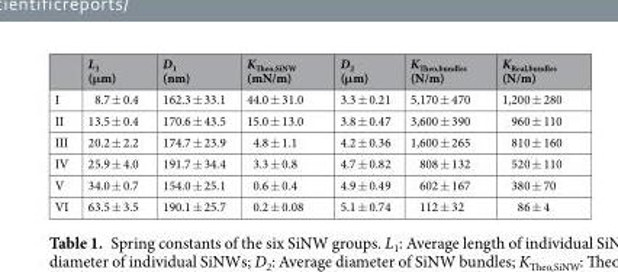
<table><thead><tr><td></td><td>L<sub>1</sub> (μm)</td><td>D<sub>1</sub> (nm)</td><td>K<sub>Theo,SiNW</sub> (mN/m)</td><td>D<sub>2</sub> (μm)</td><td>K<sub>Theo,bundles</sub> (N/m)</td><td>K<sub>Real,bundles</sub> (N/m)</td></tr></thead><tbody><tr><td>I</td><td>8.7 ± 0.4</td><td>162.3 ± 33.1</td><td>44.0 ± 31.0</td><td>3.3 ± 0.21</td><td>5,170 ± 470</td><td>1,200 ± 280</td></tr><tr><td>II</td><td>13.5 ± 0.4</td><td>170.6 ± 43.5</td><td>15.0 ± 13.0</td><td>3.8 ± 0.47</td><td>3,600 ± 390</td><td>960 ± 110</td></tr><tr><td>III</td><td>20.2 ± 2.2</td><td>174.7 ± 23.9</td><td>4.8 ± 1.1</td><td>4.2 ± 0.36</td><td>1,600 ± 265</td><td>810 ± 160</td></tr><tr><td>IV</td><td>25.9 ± 4.0</td><td>191.7 ± 34.4</td><td>3.3 ± 0.8</td><td>4.7 ± 0.82</td><td>808 ± 132</td><td>520 ± 110</td></tr><tr><td>V</td><td>34.0 ± 0.7</td><td>154.0 ± 25.1</td><td>0.6 ± 0.4</td><td>4.9 ± 0.49</td><td>602 ± 167</td><td>380 ± 70</td></tr><tr><td>VI</td><td>63.5 ± 3.5</td><td>190.1 ± 25.7</td><td>0.2 ± 0.08</td><td>5.1 ± 0.74</td><td>112 ± 32</td><td>86 ± 4</td></tr></tbody></table>